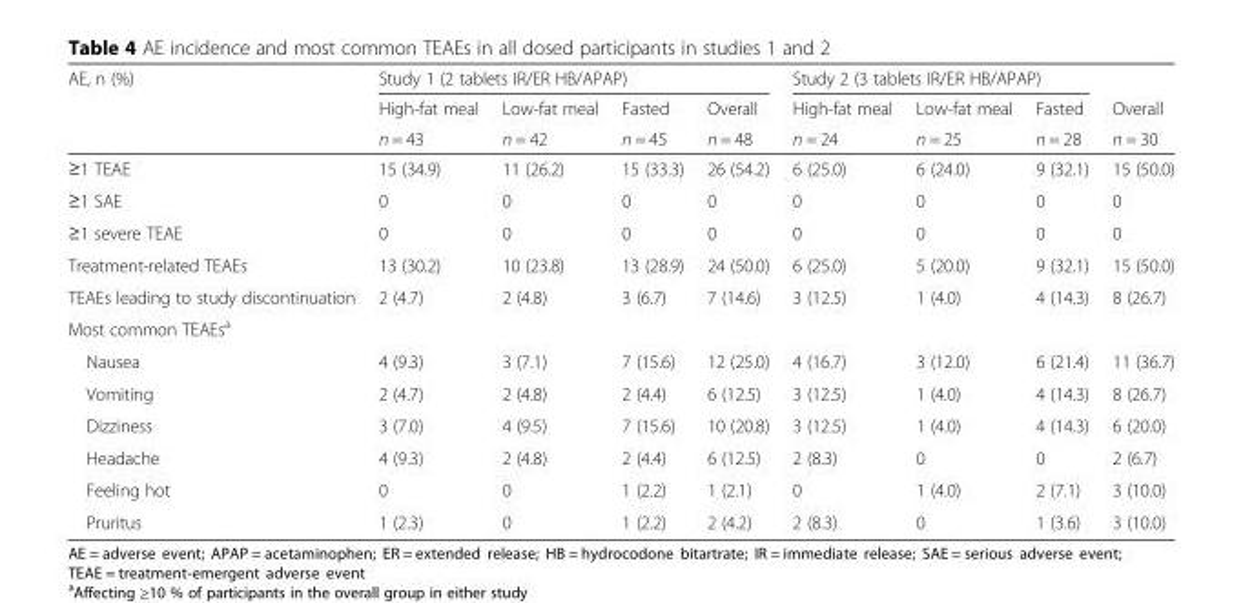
<table><thead><tr><td rowspan="3">AE, n (%)</td><td colspan="4">Study 1 (2 tablets IR/ER HB/APAP)</td><td colspan="3">Study 2 (3 tablets IR/ER HB/APAP)</td><td rowspan="3">Overall n = 30</td></tr><tr><td rowspan="2">High-fat meal n = 43</td><td rowspan="2">Low-fat meal n = 42</td><td rowspan="2">Fasted n = 45</td><td rowspan="2">Overall n = 48</td><td rowspan="2">High-fat meal n = 24</td><td rowspan="2">Low-fat meal n = 25</td><td rowspan="2">Fasted n = 28</td></tr><tr></tr></thead><tbody><tr><td>≥1 TEAE</td><td>15 (34.9)</td><td>11 (26.2)</td><td>15 (33.3)</td><td>26 (54.2)</td><td>6 (25.0)</td><td>6 (24.0)</td><td>9 (32.1)</td><td>15 (50.0)</td></tr><tr><td>≥1 SAE</td><td>0</td><td>0</td><td>0</td><td>0</td><td>0</td><td>0</td><td>0</td><td>0</td></tr><tr><td>≥1 severe TEAE</td><td>0</td><td>0</td><td>0</td><td>0</td><td>0</td><td>0</td><td>0</td><td>0</td></tr><tr><td>Treatment-related TEAEs</td><td>13 (30.2)</td><td>10 (23.8)</td><td>13 (28.9)</td><td>24 (50.0)</td><td>6 (25.0)</td><td>5 (20.0)</td><td>9 (32.1)</td><td>15 (50.0)</td></tr><tr><td>TEAEs leading to study discontinuation</td><td>2 (4.7)</td><td>2 (4.8)</td><td>3 (6.7)</td><td>7 (14.6)</td><td>3 (12.5)</td><td>1 (4.0)</td><td>4 (14.3)</td><td>8 (26.7)</td></tr><tr><td colspan="9">Most common TEAEs<sup>a</sup></td></tr><tr><td>Nausea</td><td>4 (9.3)</td><td>3 (7.1)</td><td>7 (15.6)</td><td>12 (25.0)</td><td>4 (16.7)</td><td>3 (12.0)</td><td>6 (21.4)</td><td>11 (36.7)</td></tr><tr><td>Vomiting</td><td>2 (4.7)</td><td>2 (4.8)</td><td>2 (4.4)</td><td>6 (12.5)</td><td>3 (12.5)</td><td>1 (4.0)</td><td>4 (14.3)</td><td>8 (26.7)</td></tr><tr><td>Dizziness</td><td>3 (7.0)</td><td>4 (9.5)</td><td>7 (15.6)</td><td>10 (20.8)</td><td>3 (12.5)</td><td>1 (4.0)</td><td>4 (14.3)</td><td>6 (20.0)</td></tr><tr><td>Headache</td><td>4 (9.3)</td><td>2 (4.8)</td><td>2 (4.4)</td><td>6 (12.5)</td><td>2 (8.3)</td><td>0</td><td>0</td><td>2 (6.7)</td></tr><tr><td>Feeling hot</td><td>0</td><td>0</td><td>1 (2.2)</td><td>1 (2.1)</td><td>0</td><td>1 (4.0)</td><td>2 (7.1)</td><td>3 (10.0)</td></tr><tr><td>Pruritus</td><td>1 (2.3)</td><td>0</td><td>1 (2.2)</td><td>2 (4.2)</td><td>2 (8.3)</td><td>0</td><td>1 (3.6)</td><td>3 (10.0)</td></tr></tbody></table>